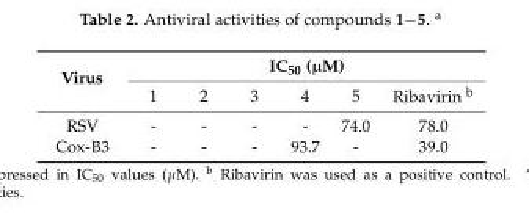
<table><tbody><tr><td rowspan="2">Virus</td><td colspan="6">IC<sub>50</sub> (µM)</td></tr><tr><td>1</td><td>2</td><td>3</td><td>4</td><td>5</td><td>Ribavirin <sup>b</sup></td></tr><tr><td>RSV</td><td>-</td><td>-</td><td>-</td><td>-</td><td>74.0</td><td>78.0</td></tr><tr><td>Cox-B3</td><td>-</td><td>-</td><td>-</td><td>93.7</td><td>-</td><td>39.0</td></tr></tbody></table>